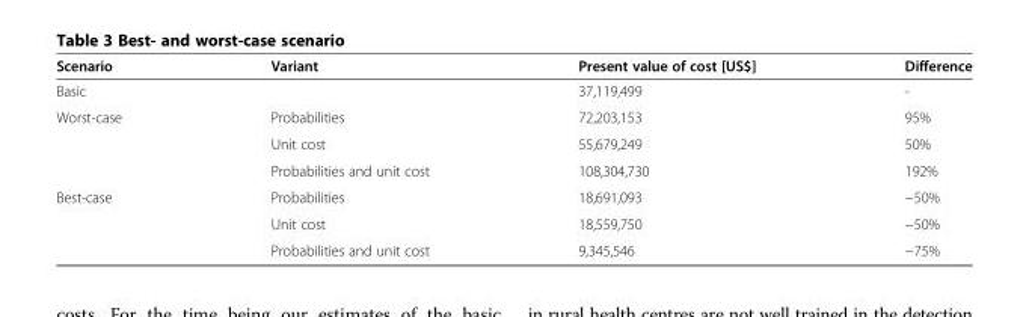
<table><thead><tr><td>Scenario</td><td>Variant</td><td>Present value of cost [US$]</td><td>Difference</td></tr></thead><tbody><tr><td>Basic</td><td></td><td>37,119,499</td><td>-</td></tr><tr><td rowspan="3">Worst-case</td><td>Probabilities</td><td>72,203,153</td><td>95%</td></tr><tr><td>Unit cost</td><td>55,679,249</td><td>50%</td></tr><tr><td>Probabilities and unit cost</td><td>108,304,730</td><td>192%</td></tr><tr><td rowspan="3">Best-case</td><td>Probabilities</td><td>18,691,093</td><td>−50%</td></tr><tr><td>Unit cost</td><td>18,559,750</td><td>−50%</td></tr><tr><td>Probabilities and unit cost</td><td>9,345,546</td><td>−75%</td></tr></tbody></table>